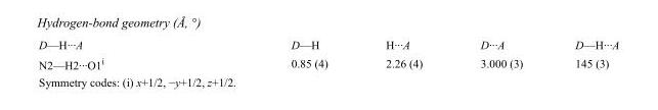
<table><tbody><tr><td>D—H···A</td><td>D—H</td><td>H···A</td><td>D···A</td><td>D—H···A</td></tr><tr><td>N2—H2···O1<sup>i</sup></td><td>0.85 (4)</td><td>2.26 (4)</td><td>3.000 (3)</td><td>145 (3)</td></tr></tbody></table>